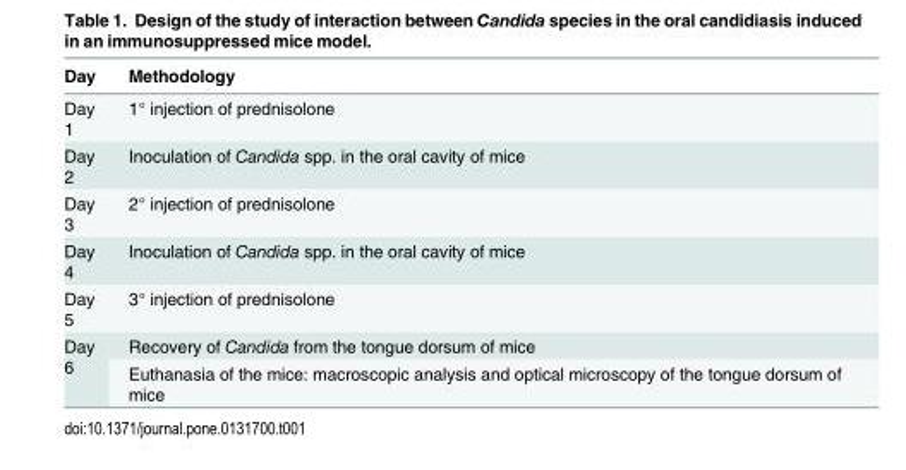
<table><thead><tr><td>Day</td><td>Methodology</td></tr></thead><tbody><tr><td>Day 1</td><td>1° injection of prednisolone</td></tr><tr><td>Day 2</td><td>Inoculation of Candida spp. in the oral cavity of mice</td></tr><tr><td>Day 3</td><td>2° injection of prednisolone</td></tr><tr><td>Day 4</td><td>Inoculation of Candida spp. in the oral cavity of mice</td></tr><tr><td>Day 5</td><td>3° injection of prednisolone</td></tr><tr><td rowspan="2">Day 6</td><td>Recovery of Candida from the tongue dorsum of mice</td></tr><tr><td>Euthanasia of the mice: macroscopic analysis and optical microscopy of the tongue dorsum of mice</td></tr></tbody></table>